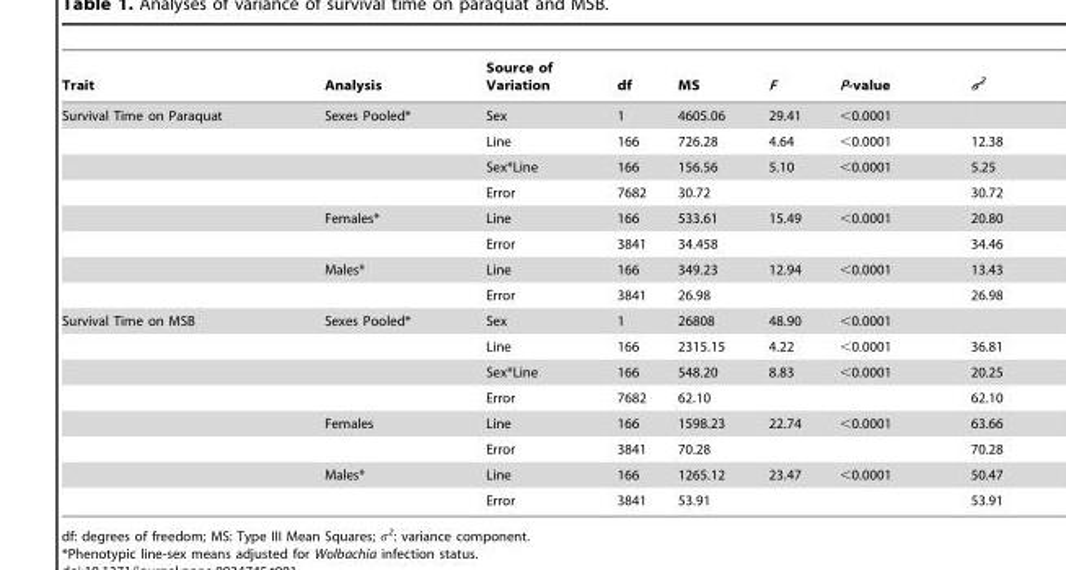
<table><thead><tr><td>Trait</td><td>Analysis</td><td>Source of Variation</td><td>df</td><td>MS</td><td>F</td><td>P-value</td><td>σ<sup>2</sup></td></tr></thead><tbody><tr><td rowspan="8">Survival Time on Paraquat</td><td>Sexes Pooled*</td><td>Sex</td><td>1</td><td>4605.06</td><td>29.41</td><td>&lt;0.0001</td><td></td></tr><tr><td></td><td>Line</td><td>166</td><td>726.28</td><td>4.64</td><td>&lt;0.0001</td><td>12.38</td></tr><tr><td></td><td>Sex*Line</td><td>166</td><td>156.56</td><td>5.10</td><td>&lt;0.0001</td><td>5.25</td></tr><tr><td></td><td>Error</td><td>7682</td><td>30.72</td><td></td><td></td><td>30.72</td></tr><tr><td>Females*</td><td>Line</td><td>166</td><td>533.61</td><td>15.49</td><td>&lt;0.0001</td><td>20.80</td></tr><tr><td></td><td>Error</td><td>3841</td><td>34.458</td><td></td><td></td><td>34.46</td></tr><tr><td>Males*</td><td>Line</td><td>166</td><td>349.23</td><td>12.94</td><td>&lt;0.0001</td><td>13.43</td></tr><tr><td></td><td>Error</td><td>3841</td><td>26.98</td><td></td><td></td><td>26.98</td></tr><tr><td rowspan="8">Survival Time on MSB</td><td>Sexes Pooled*</td><td>Sex</td><td>1</td><td>26808</td><td>48.90</td><td>&lt;0.0001</td><td></td></tr><tr><td></td><td>Line</td><td>166</td><td>2315.15</td><td>4.22</td><td>&lt;0.0001</td><td>36.81</td></tr><tr><td></td><td>Sex*Line</td><td>166</td><td>548.20</td><td>8.83</td><td>&lt;0.0001</td><td>20.25</td></tr><tr><td></td><td>Error</td><td>7682</td><td>62.10</td><td></td><td></td><td>62.10</td></tr><tr><td>Females</td><td>Line</td><td>166</td><td>1598.23</td><td>22.74</td><td>&lt;0.0001</td><td>63.66</td></tr><tr><td></td><td>Error</td><td>3841</td><td>70.28</td><td></td><td></td><td>70.28</td></tr><tr><td>Males*</td><td>Line</td><td>166</td><td>1265.12</td><td>23.47</td><td>&lt;0.0001</td><td>50.47</td></tr><tr><td></td><td>Error</td><td>3841</td><td>53.91</td><td></td><td></td><td>53.91</td></tr></tbody></table>